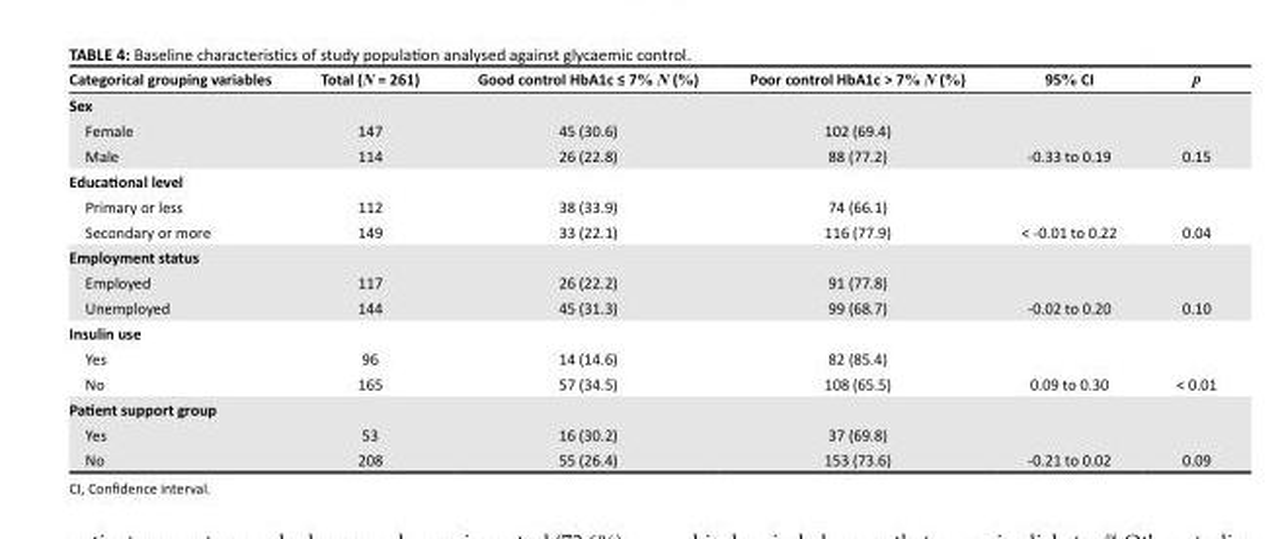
<table><thead><tr><td>Categorical grouping variables</td><td>Total (N = 261)</td><td>Good control HbA1c ≤ 7% N (%)</td><td>Poor control HbA1c &gt; 7% N (%)</td><td>95% CI</td><td>p</td></tr></thead><tbody><tr><td colspan="6">Sex</td></tr><tr><td>Female</td><td>147</td><td>45 (30.6)</td><td>102 (69.4)</td><td></td><td></td></tr><tr><td>Male</td><td>114</td><td>26 (22.8)</td><td>88 (77.2)</td><td>-0.33 to 0.19</td><td>0.15</td></tr><tr><td colspan="6">Educational level</td></tr><tr><td>Primary or less</td><td>112</td><td>38 (33.9)</td><td>74 (66.1)</td><td></td><td></td></tr><tr><td>Secondary or more</td><td>149</td><td>33 (22.1)</td><td>116 (77.9)</td><td>&lt; -0.01 to 0.22</td><td>0.04</td></tr><tr><td colspan="6">Employment status</td></tr><tr><td>Employed</td><td>117</td><td>26 (22.2)</td><td>91 (77.8)</td><td></td><td></td></tr><tr><td>Unemployed</td><td>144</td><td>45 (31.3)</td><td>99 (68.7)</td><td>-0.02 to 0.20</td><td>0.10</td></tr><tr><td colspan="6">Insulin use</td></tr><tr><td>Yes</td><td>96</td><td>14 (14.6)</td><td>82 (85.4)</td><td></td><td></td></tr><tr><td>No</td><td>165</td><td>57 (34.5)</td><td>108 (65.5)</td><td>0.09 to 0.30</td><td>&lt; 0.01</td></tr><tr><td colspan="6">Patient support group</td></tr><tr><td>Yes</td><td>53</td><td>16 (30.2)</td><td>37 (69.8)</td><td></td><td></td></tr><tr><td>No</td><td>208</td><td>55 (26.4)</td><td>153 (73.6)</td><td>-0.21 to 0.02</td><td>0.09</td></tr></tbody></table>